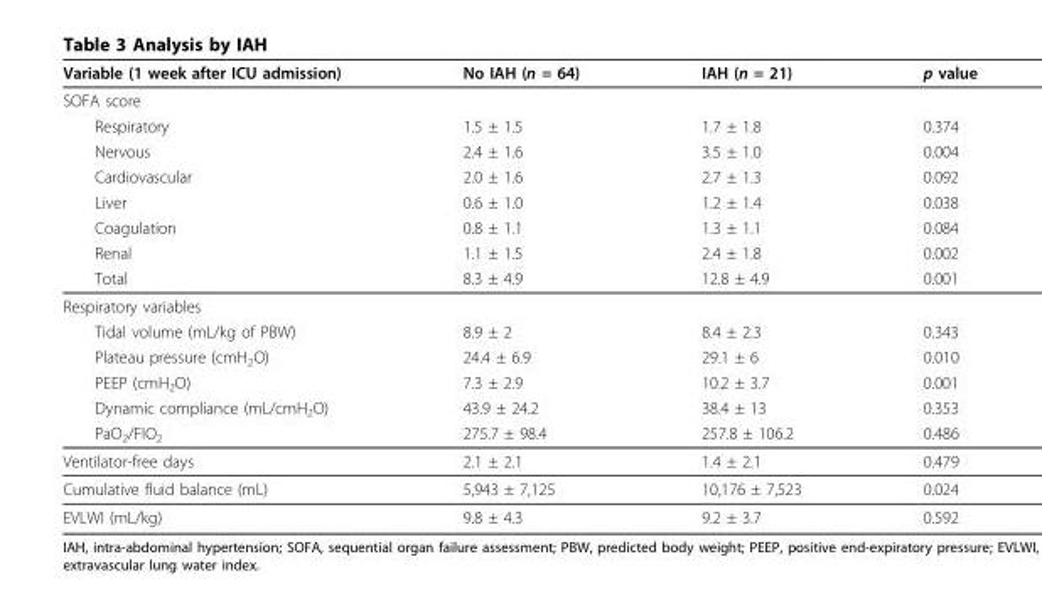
<table><thead><tr><td>Variable (1 week after ICU admission)</td><td>No IAH (n = 64)</td><td>IAH (n = 21)</td><td>p value</td></tr></thead><tbody><tr><td colspan="4">SOFA score</td></tr><tr><td>Respiratory</td><td>1.5 ± 1.5</td><td>1.7 ± 1.8</td><td>0.374</td></tr><tr><td>Nervous</td><td>2.4 ± 1.6</td><td>3.5 ± 1.0</td><td>0.004</td></tr><tr><td>Cardiovascular</td><td>2.0 ± 1.6</td><td>2.7 ± 1.3</td><td>0.092</td></tr><tr><td>Liver</td><td>0.6 ± 1.0</td><td>1.2 ± 1.4</td><td>0.038</td></tr><tr><td>Coagulation</td><td>0.8 ± 1.1</td><td>1.3 ± 1.1</td><td>0.084</td></tr><tr><td>Renal</td><td>1.1 ± 1.5</td><td>2.4 ± 1.8</td><td>0.002</td></tr><tr><td>Total</td><td>8.3 ± 4.9</td><td>12.8 ± 4.9</td><td>0.001</td></tr><tr><td colspan="4">Respiratory variables</td></tr><tr><td>Tidal volume (mL/kg of PBW)</td><td>8.9 ± 2</td><td>8.4 ± 2.3</td><td>0.343</td></tr><tr><td>Plateau pressure (cmH<sub>2</sub>O)</td><td>24.4 ± 6.9</td><td>29.1 ± 6</td><td>0.010</td></tr><tr><td>PEEP (cmH<sub>2</sub>O)</td><td>7.3 ± 2.9</td><td>10.2 ± 3.7</td><td>0.001</td></tr><tr><td>Dynamic compliance (mL/cmH<sub>2</sub>O)</td><td>43.9 ± 24.2</td><td>38.4 ± 13</td><td>0.353</td></tr><tr><td>PaO<sub>2</sub>/FIO<sub>2</sub></td><td>275.7 ± 98.4</td><td>257.8 ± 106.2</td><td>0.486</td></tr><tr><td>Ventilator-free days</td><td>2.1 ± 2.1</td><td>1.4 ± 2.1</td><td>0.479</td></tr><tr><td>Cumulative fluid balance (mL)</td><td>5,943 ± 7,125</td><td>10,176 ± 7,523</td><td>0.024</td></tr><tr><td>EVLWI (mL/kg)</td><td>9.8 ± 4.3</td><td>9.2 ± 3.7</td><td>0.592</td></tr></tbody></table>